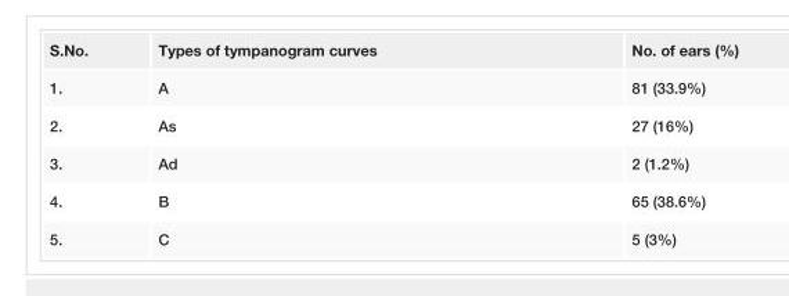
<table><tbody><tr><td>S.No.</td><td>Types of tympanogram curves</td><td>No. of ears (%)</td></tr><tr><td>1.</td><td>A</td><td>81 (33.9%)</td></tr><tr><td>2.</td><td>As</td><td>27 (16%)</td></tr><tr><td>3.</td><td>Ad</td><td>2 (1.2%)</td></tr><tr><td>4.</td><td>B</td><td>65 (38.6%)</td></tr><tr><td>5.</td><td>C</td><td>5 (3%)</td></tr></tbody></table>